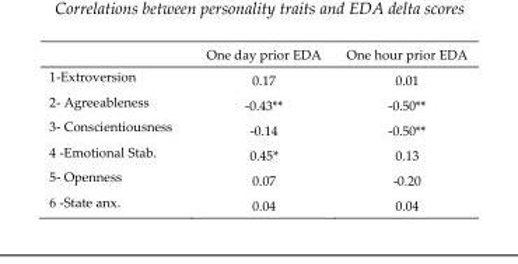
<table><thead><tr><td></td><td>One day prior EDA</td><td>One hour prior EDA</td></tr></thead><tbody><tr><td>1-Extroversion</td><td>0.17</td><td>0.01</td></tr><tr><td>2- Agreeableness</td><td>-0.43**</td><td>-0.50**</td></tr><tr><td>3- Conscientiousness</td><td>-0.14</td><td>-0.50**</td></tr><tr><td>4 -Emotional Stab.</td><td>0.45*</td><td>0.13</td></tr><tr><td>5- Openness</td><td>0.07</td><td>-0.20</td></tr><tr><td>6 -State anx.</td><td>0.04</td><td>0.04</td></tr></tbody></table>